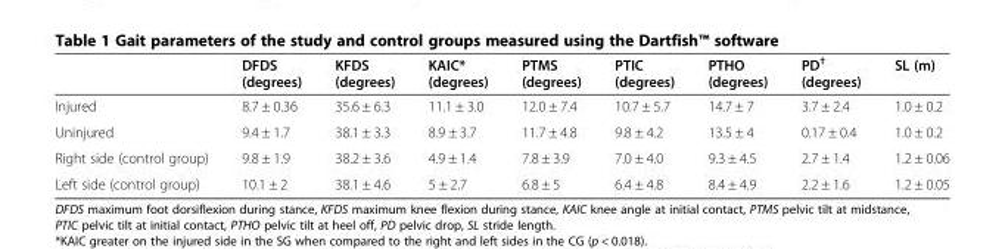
<table><thead><tr><td></td><td>DFDS (degrees)</td><td>KFDS (degrees)</td><td>KAIC* (degrees)</td><td>PTMS (degrees)</td><td>PTIC (degrees)</td><td>PTHO (degrees)</td><td>PD<sup>†</sup> (degrees)</td><td>SL (m)</td></tr></thead><tbody><tr><td>Injured</td><td>8.7 ± 0.36</td><td>35.6 ± 6.3</td><td>11.1 ± 3.0</td><td>12.0 ± 7.4</td><td>10.7 ± 5.7</td><td>14.7 ± 7</td><td>3.7 ± 2.4</td><td>1.0 ± 0.2</td></tr><tr><td>Uninjured</td><td>9.4 ± 1.7</td><td>38.1 ± 3.3</td><td>8.9 ± 3.7</td><td>11.7 ± 4.8</td><td>9.8 ± 4.2</td><td>13.5 ± 4</td><td>0.17 ± 0.4</td><td>1.0 ± 0.2</td></tr><tr><td>Right side (control group)</td><td>9.8 ± 1.9</td><td>38.2 ± 3.6</td><td>4.9 ± 1.4</td><td>7.8 ± 3.9</td><td>7.0 ± 4.0</td><td>9.3 ± 4.5</td><td>2.7 ± 1.4</td><td>1.2 ± 0.06</td></tr><tr><td>Left side (control group)</td><td>10.1 ± 2</td><td>38.1 ± 4.6</td><td>5 ± 2.7</td><td>6.8 ± 5</td><td>6.4 ± 4.8</td><td>8.4 ± 4.9</td><td>2.2 ± 1.6</td><td>1.2 ± 0.05</td></tr></tbody></table>